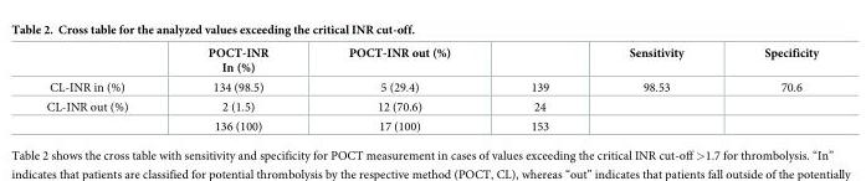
<table><thead><tr><td></td><td>POCT-INR In (%)</td><td>POCT-INR out (%)</td><td></td><td>Sensitivity</td><td>Specificity</td></tr></thead><tbody><tr><td>CL-INR in (%)</td><td>134 (98.5)</td><td>5 (29.4)</td><td>139</td><td>98.53</td><td>70.6</td></tr><tr><td rowspan="2">CL-INR out (%)</td><td>2 (1.5)</td><td>12 (70.6)</td><td>24</td><td></td><td></td></tr><tr><td>136 (100)</td><td>17 (100)</td><td>153</td><td></td><td></td></tr></tbody></table>